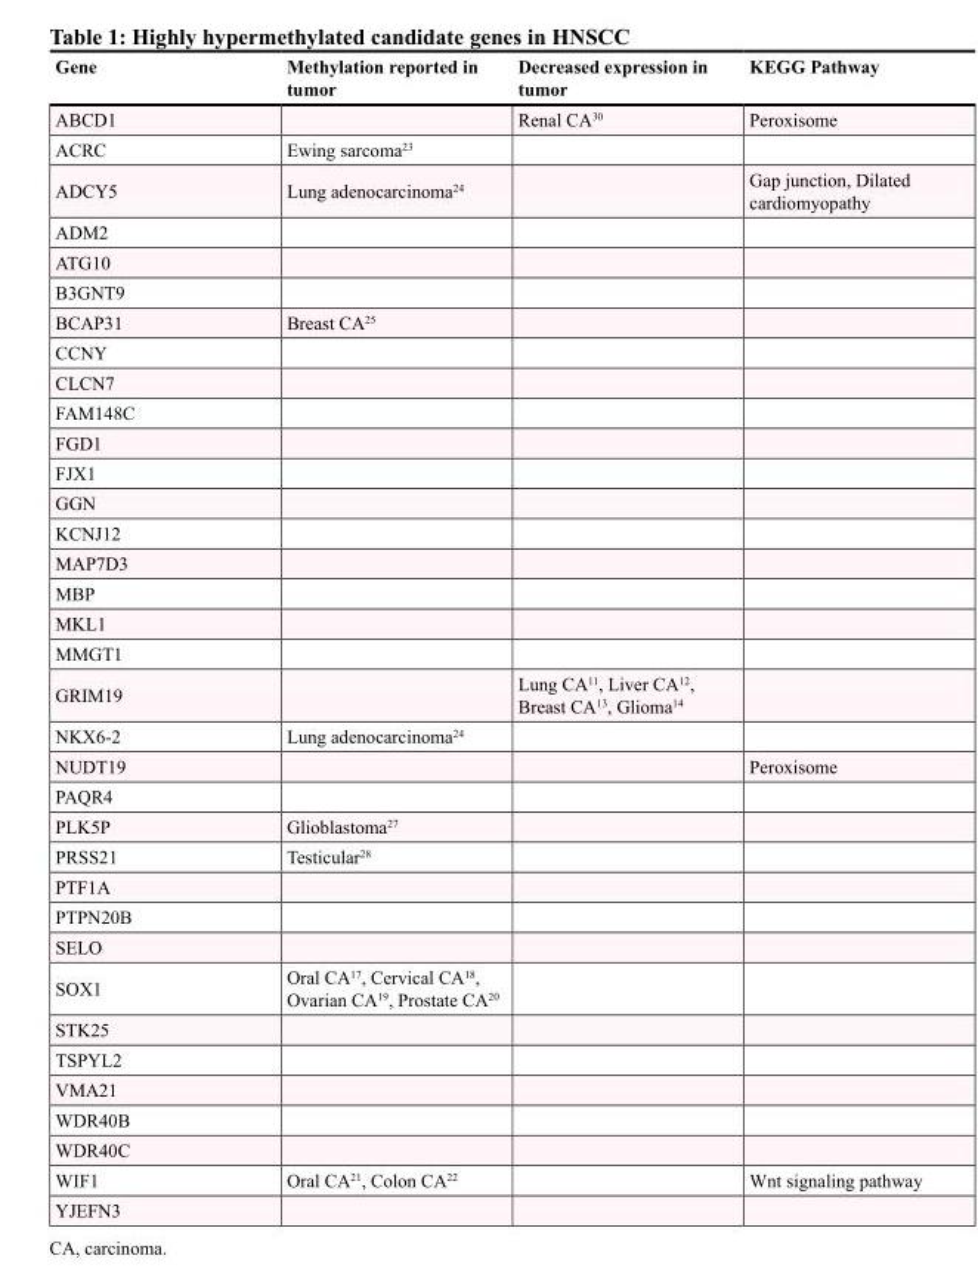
<table><thead><tr><td>Gene</td><td>Methylation reported in tumor</td><td>Decreased expression in tumor</td><td>KEGG Pathway</td></tr></thead><tbody><tr><td>ABCD1</td><td></td><td>Renal CA<sup>30</sup></td><td>Peroxisome</td></tr><tr><td>ACRC</td><td>Ewing sarcoma<sup>23</sup></td><td></td><td></td></tr><tr><td>ADCY5</td><td>Lung adenocarcinoma<sup>24</sup></td><td></td><td>Gap junction, Dilated cardiomyopathy</td></tr><tr><td colspan="4">ADM2</td></tr><tr><td colspan="4">ATG10</td></tr><tr><td colspan="4">B3GNT9</td></tr><tr><td>BCAP31</td><td>Breast CA<sup>25</sup></td><td></td><td></td></tr><tr><td colspan="4">CCNY</td></tr><tr><td colspan="4">CLCN7</td></tr><tr><td colspan="4">FAM148C</td></tr><tr><td colspan="4">FGD1</td></tr><tr><td colspan="4">FJX1</td></tr><tr><td colspan="4">GGN</td></tr><tr><td colspan="4">KCNJ12</td></tr><tr><td colspan="4">MAP7D3</td></tr><tr><td colspan="4">MBP</td></tr><tr><td colspan="4">MKL1</td></tr><tr><td colspan="4">MMGT1</td></tr><tr><td>GRIM19</td><td></td><td>Lung CA<sup>11</sup>, Liver CA<sup>12</sup>, Breast CA<sup>13</sup>, Glioma<sup>14</sup></td><td></td></tr><tr><td>NKX6-2</td><td>Lung adenocarcinoma<sup>24</sup></td><td></td><td></td></tr><tr><td>NUDT19</td><td></td><td></td><td>Peroxisome</td></tr><tr><td colspan="4">PAQR4</td></tr><tr><td>PLK5P</td><td>Glioblastoma<sup>27</sup></td><td></td><td></td></tr><tr><td>PRSS21</td><td>Testicular<sup>28</sup></td><td></td><td></td></tr><tr><td colspan="4">PTF1A</td></tr><tr><td colspan="4">PTPN20B</td></tr><tr><td colspan="4">SELO</td></tr><tr><td>SOX1</td><td>Oral CA<sup>17</sup>, Cervical CA<sup>18</sup>, Ovarian CA<sup>19</sup>, Prostate CA<sup>20</sup></td><td></td><td></td></tr><tr><td colspan="4">STK25</td></tr><tr><td colspan="4">TSPYL2</td></tr><tr><td colspan="4">VMA21</td></tr><tr><td colspan="4">WDR40B</td></tr><tr><td colspan="4">WDR40C</td></tr><tr><td>WIF1</td><td>Oral CA<sup>21</sup>, Colon CA<sup>22</sup></td><td></td><td>Wnt signaling pathway</td></tr><tr><td>YJEFN3</td><td></td><td></td><td></td></tr></tbody></table>